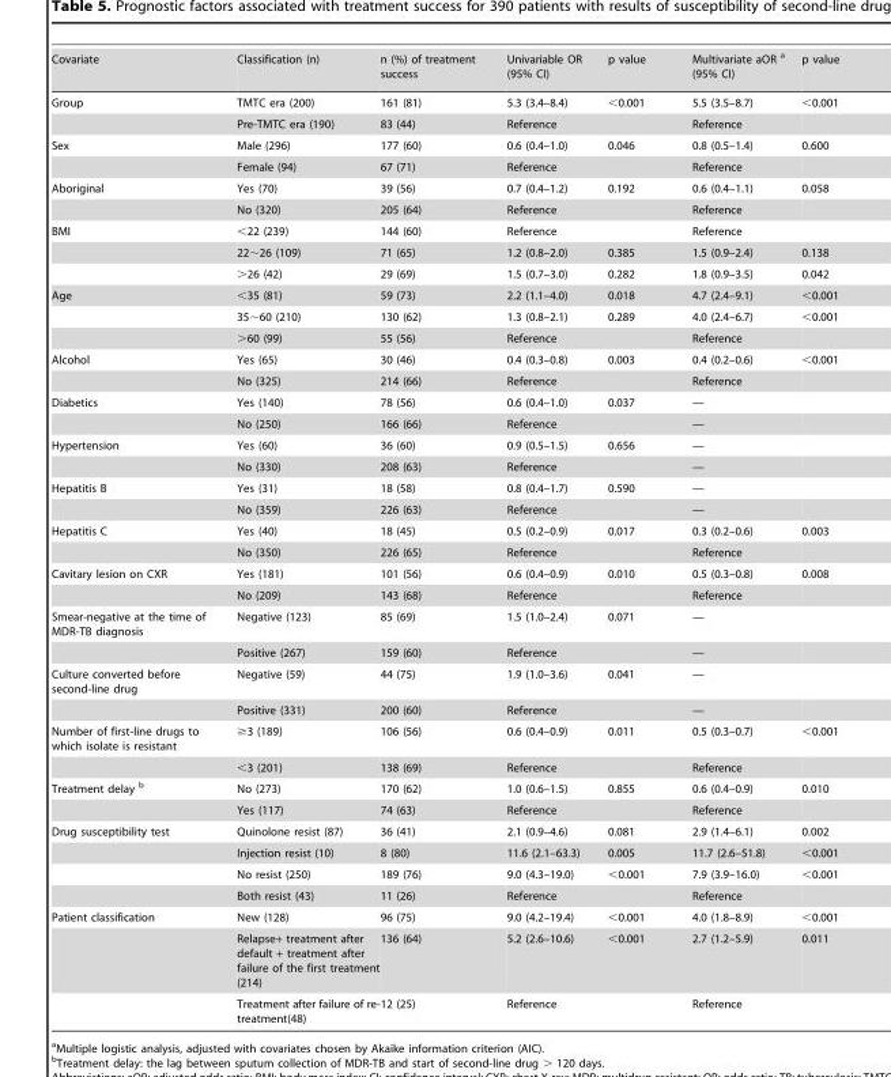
<table><tbody><tr><td>Covariate</td><td>Classification (n)</td><td>n (%) of treatment success</td><td>Univariable OR (95% CI)</td><td>p value</td><td>Multivariate aOR a (95% CI)</td><td>p value</td></tr><tr><td rowspan="2">Group</td><td>TMTC era (200)</td><td>161 (81)</td><td>5.3 (3.4–8.4)</td><td>&lt;0.001</td><td>5.5 (3.5–8.7)</td><td>&lt;0.001</td></tr><tr><td>Pre-TMTC era (190)</td><td>83 (44)</td><td>Reference</td><td></td><td>Reference</td><td></td></tr><tr><td rowspan="2">Sex</td><td>Male (296)</td><td>177 (60)</td><td>0.6 (0.4–1.0)</td><td>0.046</td><td>0.8 (0.5–1.4)</td><td>0.600</td></tr><tr><td>Female (94)</td><td>67 (71)</td><td>Reference</td><td></td><td>Reference</td><td></td></tr><tr><td rowspan="2">Aboriginal</td><td>Yes (70)</td><td>39 (56)</td><td>0.7 (0.4–1.2)</td><td>0.192</td><td>0.6 (0.4–1.1)</td><td>0.058</td></tr><tr><td>No (320)</td><td>205 (64)</td><td>Reference</td><td></td><td>Reference</td><td></td></tr><tr><td rowspan="3">BMI</td><td>&lt;22 (239)</td><td>144 (60)</td><td>Reference</td><td></td><td>Reference</td><td></td></tr><tr><td>22∼26 (109)</td><td>71 (65)</td><td>1.2 (0.8–2.0)</td><td>0.385</td><td>1.5 (0.9–2.4)</td><td>0.138</td></tr><tr><td>&gt;26 (42)</td><td>29 (69)</td><td>1.5 (0.7–3.0)</td><td>0.282</td><td>1.8 (0.9–3.5)</td><td>0.042</td></tr><tr><td rowspan="3">Age</td><td>&lt;35 (81)</td><td>59 (73)</td><td>2.2 (1.1–4.0)</td><td>0.018</td><td>4.7 (2.4–9.1)</td><td>&lt;0.001</td></tr><tr><td>35∼60 (210)</td><td>130 (62)</td><td>1.3 (0.8–2.1)</td><td>0.289</td><td>4.0 (2.4–6.7)</td><td>&lt;0.001</td></tr><tr><td>&gt;60 (99)</td><td>55 (56)</td><td>Reference</td><td></td><td>Reference</td><td></td></tr><tr><td rowspan="2">Alcohol</td><td>Yes (65)</td><td>30 (46)</td><td>0.4 (0.3–0.8)</td><td>0.003</td><td>0.4 (0.2–0.6)</td><td>&lt;0.001</td></tr><tr><td>No (325)</td><td>214 (66)</td><td>Reference</td><td></td><td>Reference</td><td></td></tr><tr><td rowspan="2">Diabetics</td><td>Yes (140)</td><td>78 (56)</td><td>0.6 (0.4–1.0)</td><td>0.037</td><td>—</td><td></td></tr><tr><td>No (250)</td><td>166 (66)</td><td>Reference</td><td></td><td>—</td><td></td></tr><tr><td rowspan="2">Hypertension</td><td>Yes (60)</td><td>36 (60)</td><td>0.9 (0.5–1.5)</td><td>0.656</td><td>—</td><td></td></tr><tr><td>No (330)</td><td>208 (63)</td><td>Reference</td><td></td><td>—</td><td></td></tr><tr><td rowspan="2">Hepatitis B</td><td>Yes (31)</td><td>18 (58)</td><td>0.8 (0.4–1.7)</td><td>0.590</td><td>—</td><td></td></tr><tr><td>No (359)</td><td>226 (63)</td><td>Reference</td><td></td><td>—</td><td></td></tr><tr><td rowspan="2">Hepatitis C</td><td>Yes (40)</td><td>18 (45)</td><td>0.5 (0.2–0.9)</td><td>0.017</td><td>0.3 (0.2–0.6)</td><td>0.003</td></tr><tr><td>No (350)</td><td>226 (65)</td><td>Reference</td><td></td><td>Reference</td><td></td></tr><tr><td rowspan="2">Cavitary lesion on CXR</td><td>Yes (181)</td><td>101 (56)</td><td>0.6 (0.4–0.9)</td><td>0.010</td><td>0.5 (0.3–0.8)</td><td>0.008</td></tr><tr><td>No (209)</td><td>143 (68)</td><td>Reference</td><td></td><td>Reference</td><td></td></tr><tr><td rowspan="2">Smear-negative at the time of MDR-TB diagnosis</td><td>Negative (123)</td><td>85 (69)</td><td>1.5 (1.0–2.4)</td><td>0.071</td><td>—</td><td></td></tr><tr><td>Positive (267)</td><td>159 (60)</td><td>Reference</td><td></td><td>—</td><td></td></tr><tr><td rowspan="2">Culture converted before second-line drug</td><td>Negative (59)</td><td>44 (75)</td><td>1.9 (1.0–3.6)</td><td>0.041</td><td>—</td><td></td></tr><tr><td>Positive (331)</td><td>200 (60)</td><td>Reference</td><td></td><td>—</td><td></td></tr><tr><td rowspan="2">Number of first-line drugs to which isolate is resistant</td><td>≥3 (189)</td><td>106 (56)</td><td>0.6 (0.4–0.9)</td><td>0.011</td><td>0.5 (0.3–0.7)</td><td>&lt;0.001</td></tr><tr><td>&lt;3 (201)</td><td>138 (69)</td><td>Reference</td><td></td><td>Reference</td><td></td></tr><tr><td rowspan="2">Treatment delay b</td><td>No (273)</td><td>170 (62)</td><td>1.0 (0.6–1.5)</td><td>0.855</td><td>0.6 (0.4–0.9)</td><td>0.010</td></tr><tr><td>Yes (117)</td><td>74 (63)</td><td>Reference</td><td></td><td>Reference</td><td></td></tr><tr><td rowspan="4">Drug susceptibility test</td><td>Quinolone resist (87)</td><td>36 (41)</td><td>2.1 (0.9–4.6)</td><td>0.081</td><td>2.9 (1.4–6.1)</td><td>0.002</td></tr><tr><td>Injection resist (10)</td><td>8 (80)</td><td>11.6 (2.1–63.3)</td><td>0.005</td><td>11.7 (2.6–51.8)</td><td>&lt;0.001</td></tr><tr><td>No resist (250)</td><td>189 (76)</td><td>9.0 (4.3–19.0)</td><td>&lt;0.001</td><td>7.9 (3.9–16.0)</td><td>&lt;0.001</td></tr><tr><td>Both resist (43)</td><td>11 (26)</td><td>Reference</td><td></td><td>Reference</td><td></td></tr><tr><td rowspan="3">Patient classification</td><td>New (128)</td><td>96 (75)</td><td>9.0 (4.2–19.4)</td><td>&lt;0.001</td><td>4.0 (1.8–8.9)</td><td>&lt;0.001</td></tr><tr><td>Relapse+ treatment after default + treatment after failure of the first treatment (214)</td><td>136 (64)</td><td>5.2 (2.6–10.6)</td><td>&lt;0.001</td><td>2.7 (1.2–5.9)</td><td>0.011</td></tr><tr><td>Treatment after failure of re- treatment(48)</td><td>12 (25)</td><td>Reference</td><td></td><td>Reference</td><td></td></tr></tbody></table>